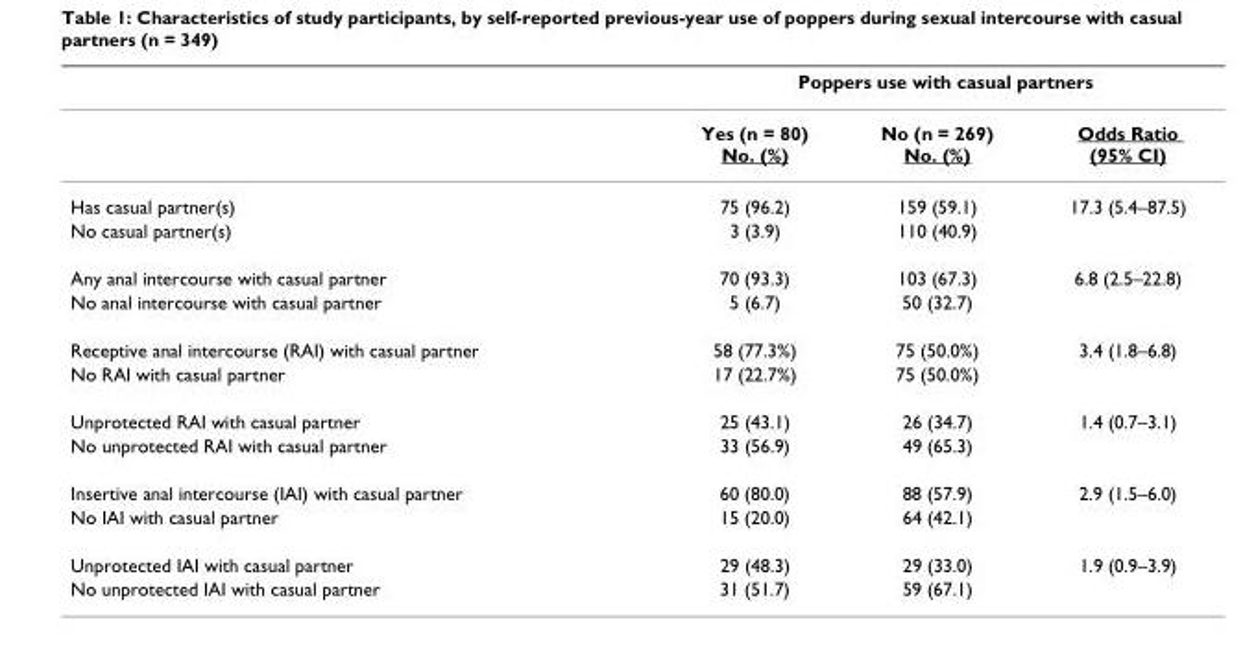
<table><thead><tr><td rowspan="2"></td><td colspan="3">Poppers use with casual partners</td></tr><tr><td>Yes (n = 80) No. (%)</td><td>No (n = 269) No. (%)</td><td>Odds Ratio (95% CI)</td></tr></thead><tbody><tr><td>Has casual partner(s)</td><td>75 (96.2)</td><td>159 (59.1)</td><td>17.3 (5.4–87.5)</td></tr><tr><td>No casual partner(s)</td><td>3 (3.9)</td><td>110 (40.9)</td><td></td></tr><tr><td>Any anal intercourse with casual partner</td><td>70 (93.3)</td><td>103 (67.3)</td><td>6.8 (2.5–22.8)</td></tr><tr><td>No anal intercourse with casual partner</td><td>5 (6.7)</td><td>50 (32.7)</td><td></td></tr><tr><td>Receptive anal intercourse (RAI) with casual partner</td><td>58 (77.3%)</td><td>75 (50.0%)</td><td>3.4 (1.8–6.8)</td></tr><tr><td>No RAI with casual partner</td><td>17 (22.7%)</td><td>75 (50.0%)</td><td></td></tr><tr><td>Unprotected RAI with casual partner</td><td>25 (43.1)</td><td>26 (34.7)</td><td>1.4 (0.7–3.1)</td></tr><tr><td>No unprotected RAI with casual partner</td><td>33 (56.9)</td><td>49 (65.3)</td><td></td></tr><tr><td>Insertive anal intercourse (IAI) with casual partner</td><td>60 (80.0)</td><td>88 (57.9)</td><td>2.9 (1.5–6.0)</td></tr><tr><td>No IAI with casual partner</td><td>15 (20.0)</td><td>64 (42.1)</td><td></td></tr><tr><td>Unprotected IAI with casual partner</td><td>29 (48.3)</td><td>29 (33.0)</td><td>1.9 (0.9–3.9)</td></tr><tr><td>No unprotected IAI with casual partner</td><td>31 (51.7)</td><td>59 (67.1)</td><td></td></tr></tbody></table>